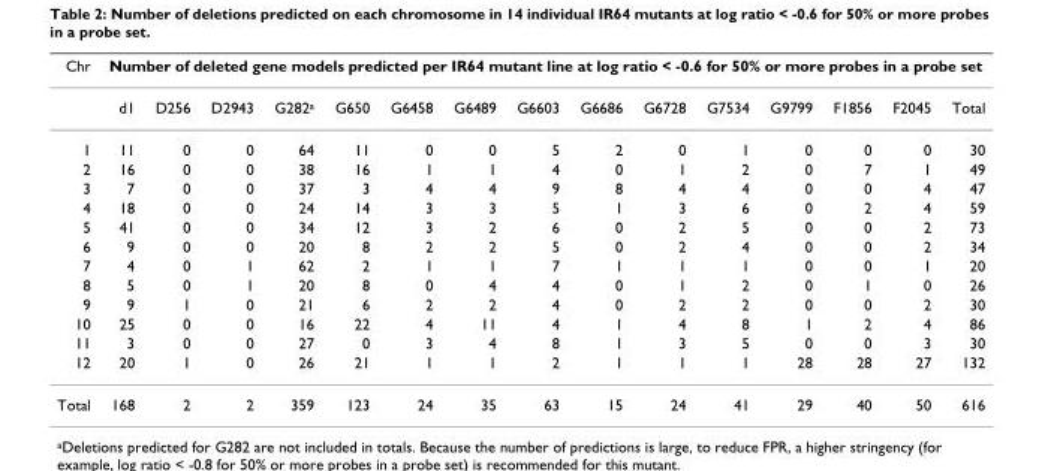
<table><thead><tr><td rowspan="2">Chr</td><td colspan="15">Number of deleted gene models predicted per IR64 mutant line at log ratio &lt; -0.6 for 50% or more probes in a probe set</td></tr><tr><td>d1</td><td>D256</td><td>D2943</td><td>G282<sup>a</sup></td><td>G650</td><td>G6458</td><td>G6489</td><td>G6603</td><td>G6686</td><td>G6728</td><td>G7534</td><td>G9799</td><td>F1856</td><td>F2045</td><td>Total</td></tr></thead><tbody><tr><td>1</td><td>11</td><td>0</td><td>0</td><td>64</td><td>11</td><td>0</td><td>0</td><td>5</td><td>2</td><td>0</td><td>1</td><td>0</td><td>0</td><td>0</td><td>30</td></tr><tr><td>2</td><td>16</td><td>0</td><td>0</td><td>38</td><td>16</td><td>1</td><td>1</td><td>4</td><td>0</td><td>1</td><td>2</td><td>0</td><td>7</td><td>1</td><td>49</td></tr><tr><td>3</td><td>7</td><td>0</td><td>0</td><td>37</td><td>3</td><td>4</td><td>4</td><td>9</td><td>8</td><td>4</td><td>4</td><td>0</td><td>0</td><td>4</td><td>47</td></tr><tr><td>4</td><td>18</td><td>0</td><td>0</td><td>24</td><td>14</td><td>3</td><td>3</td><td>5</td><td>1</td><td>3</td><td>6</td><td>0</td><td>2</td><td>4</td><td>59</td></tr><tr><td>5</td><td>41</td><td>0</td><td>0</td><td>34</td><td>12</td><td>3</td><td>2</td><td>6</td><td>0</td><td>2</td><td>5</td><td>0</td><td>0</td><td>2</td><td>73</td></tr><tr><td>6</td><td>9</td><td>0</td><td>0</td><td>20</td><td>8</td><td>2</td><td>2</td><td>5</td><td>0</td><td>2</td><td>4</td><td>0</td><td>0</td><td>2</td><td>34</td></tr><tr><td>7</td><td>4</td><td>0</td><td>1</td><td>62</td><td>2</td><td>1</td><td>1</td><td>7</td><td>1</td><td>1</td><td>1</td><td>0</td><td>0</td><td>1</td><td>20</td></tr><tr><td>8</td><td>5</td><td>0</td><td>1</td><td>20</td><td>8</td><td>0</td><td>4</td><td>4</td><td>0</td><td>1</td><td>2</td><td>0</td><td>1</td><td>0</td><td>26</td></tr><tr><td>9</td><td>9</td><td>1</td><td>0</td><td>21</td><td>6</td><td>2</td><td>2</td><td>4</td><td>0</td><td>2</td><td>2</td><td>0</td><td>0</td><td>2</td><td>30</td></tr><tr><td>10</td><td>25</td><td>0</td><td>0</td><td>16</td><td>22</td><td>4</td><td>11</td><td>4</td><td>1</td><td>4</td><td>8</td><td>1</td><td>2</td><td>4</td><td>86</td></tr><tr><td>11</td><td>3</td><td>0</td><td>0</td><td>27</td><td>0</td><td>3</td><td>4</td><td>8</td><td>1</td><td>3</td><td>5</td><td>0</td><td>0</td><td>3</td><td>30</td></tr><tr><td>12</td><td>20</td><td>1</td><td>0</td><td>26</td><td>21</td><td>1</td><td>1</td><td>2</td><td>1</td><td>1</td><td>1</td><td>28</td><td>28</td><td>27</td><td>132</td></tr><tr><td>Total</td><td>168</td><td>2</td><td>2</td><td>359</td><td>123</td><td>24</td><td>35</td><td>63</td><td>15</td><td>24</td><td>41</td><td>29</td><td>40</td><td>50</td><td>616</td></tr></tbody></table>